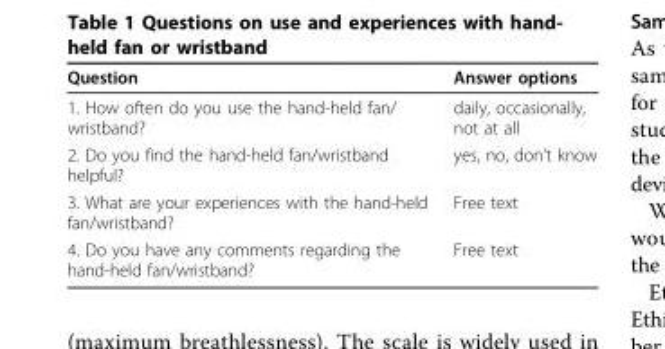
<table><thead><tr><td>Question</td><td>Answer options</td></tr></thead><tbody><tr><td>1. How often do you use the hand-held fan/ wristband?</td><td>daily, occasionally, not at all</td></tr><tr><td>2. Do you find the hand-held fan/wristband helpful?</td><td>yes, no, don’t know</td></tr><tr><td>3. What are your experiences with the hand-held fan/wristband?</td><td>Free text</td></tr><tr><td>4. Do you have any comments regarding the hand-held fan/wristband?</td><td>Free text</td></tr></tbody></table>